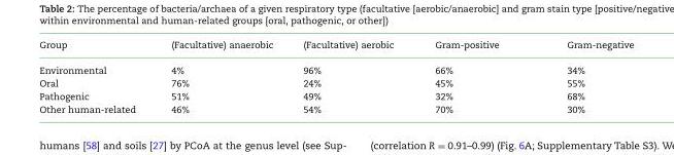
<table><thead><tr><td>Group</td><td>(Facultative) anaerobic</td><td>(Facultative) aerobic</td><td>Gram-positive</td><td>Gram-negative</td></tr></thead><tbody><tr><td>Environmental</td><td>4%</td><td>96%</td><td>66%</td><td>34%</td></tr><tr><td>Oral</td><td>76%</td><td>24%</td><td>45%</td><td>55%</td></tr><tr><td>Pathogenic</td><td>51%</td><td>49%</td><td>32%</td><td>68%</td></tr><tr><td>Other human-related</td><td>46%</td><td>54%</td><td>70%</td><td>30%</td></tr></tbody></table>